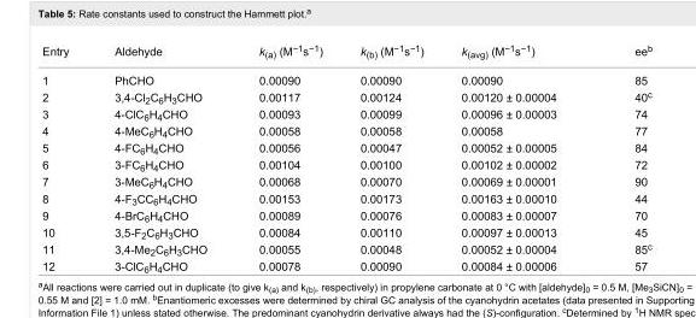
<table><tbody><tr><td>Entry</td><td>Aldehyde</td><td>k<sub>(a)</sub> (M<sup>−1</sup>s<sup>−1</sup>)</td><td>k<sub>(b)</sub> (M<sup>−1</sup>s<sup>−1</sup>)</td><td>k<sub>(avg)</sub> (M<sup>−1</sup>s<sup>−1</sup>)</td><td>ee<sup>b</sup></td></tr><tr><td>1</td><td>PhCHO</td><td>0.00090</td><td>0.00090</td><td>0.00090</td><td>85</td></tr><tr><td>2</td><td>3,4-Cl<sub>2</sub>C<sub>6</sub>H<sub>3</sub>CHO</td><td>0.00117</td><td>0.00124</td><td>0.00120 ± 0.00004</td><td>40<sup>c</sup></td></tr><tr><td>3</td><td>4-ClC<sub>6</sub>H<sub>4</sub>CHO</td><td>0.00093</td><td>0.00099</td><td>0.00096 ± 0.00003</td><td>74</td></tr><tr><td>4</td><td>4-MeC<sub>6</sub>H<sub>4</sub>CHO</td><td>0.00058</td><td>0.00058</td><td>0.00058</td><td>77</td></tr><tr><td>5</td><td>4-FC<sub>6</sub>H<sub>4</sub>CHO</td><td>0.00056</td><td>0.00047</td><td>0.00052 ± 0.00005</td><td>84</td></tr><tr><td>6</td><td>3-FC<sub>6</sub>H<sub>4</sub>CHO</td><td>0.00104</td><td>0.00100</td><td>0.00102 ± 0.00002</td><td>72</td></tr><tr><td>7</td><td>3-MeC<sub>6</sub>H<sub>4</sub>CHO</td><td>0.00068</td><td>0.00070</td><td>0.00069 ± 0.00001</td><td>90</td></tr><tr><td>8</td><td>4-F<sub>3</sub>CC<sub>6</sub>H<sub>4</sub>CHO</td><td>0.00153</td><td>0.00173</td><td>0.00163 ± 0.00010</td><td>44</td></tr><tr><td>9</td><td>4-BrC<sub>6</sub>H<sub>4</sub>CHO</td><td>0.00089</td><td>0.00076</td><td>0.00083 ± 0.00007</td><td>70</td></tr><tr><td>10</td><td>3,5-F<sub>2</sub>C<sub>6</sub>H<sub>3</sub>CHO</td><td>0.00084</td><td>0.00110</td><td>0.00097 ± 0.00013</td><td>45</td></tr><tr><td>11</td><td>3,4-Me<sub>2</sub>C<sub>6</sub>H<sub>3</sub>CHO</td><td>0.00055</td><td>0.00048</td><td>0.00052 ± 0.00004</td><td>85<sup>c</sup></td></tr><tr><td>12</td><td>3-ClC<sub>6</sub>H<sub>4</sub>CHO</td><td>0.00078</td><td>0.00090</td><td>0.00084 ± 0.00006</td><td>57</td></tr></tbody></table>